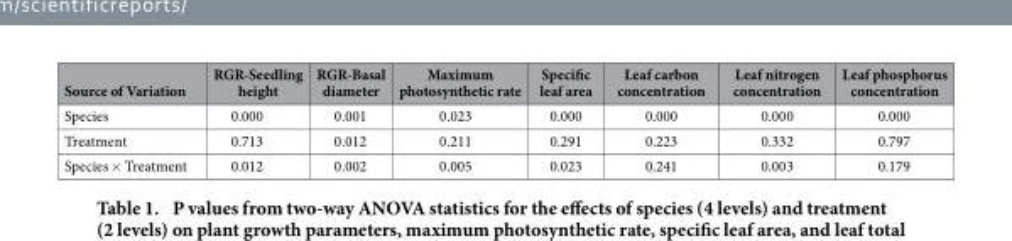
<table><thead><tr><td>Source of Variation</td><td>RGR-Seedling height</td><td>RGR-Basal diameter</td><td>Maximum photosynthetic rate</td><td>Specific leaf area</td><td>Leaf carbon concentration</td><td>Leaf nitrogen concentration</td><td>Leaf phosphorus concentration</td></tr></thead><tbody><tr><td>Species</td><td>0.000</td><td>0.001</td><td>0.023</td><td>0.000</td><td>0.000</td><td>0.000</td><td>0.000</td></tr><tr><td>Treatment</td><td>0.713</td><td>0.012</td><td>0.211</td><td>0.291</td><td>0.223</td><td>0.332</td><td>0.797</td></tr><tr><td>Species × Treatment</td><td>0.012</td><td>0.002</td><td>0.005</td><td>0.023</td><td>0.241</td><td>0.003</td><td>0.179</td></tr></tbody></table>